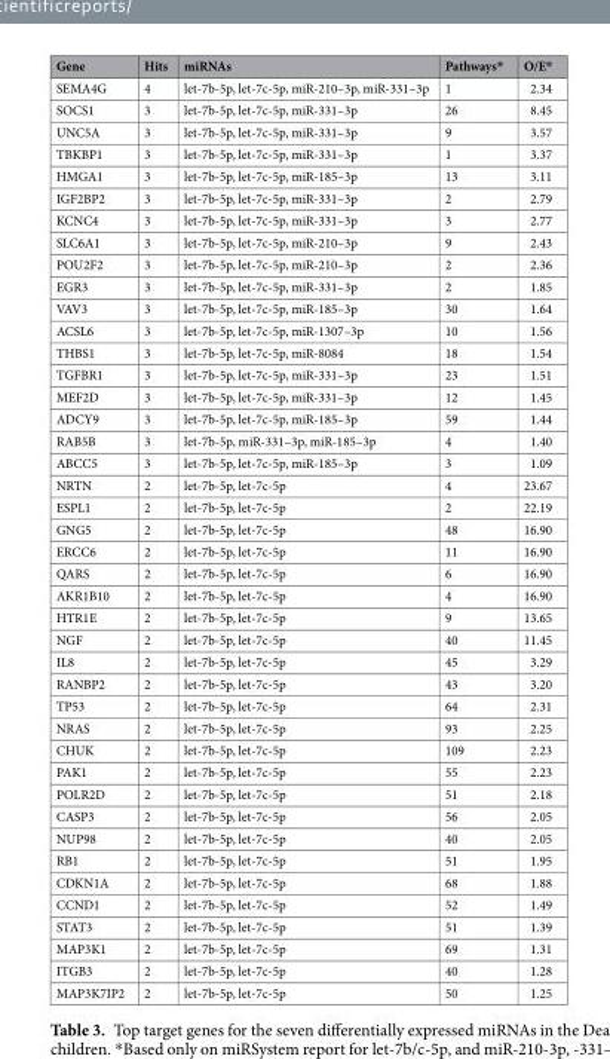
<table><thead><tr><td>Gene</td><td>Hits</td><td>miRNAs</td><td>Pathways*</td><td>O/E*</td></tr></thead><tbody><tr><td>SEMA4G</td><td>4</td><td>let-7b-5p, let-7c-5p, miR-210–3p, miR-331–3p</td><td>1</td><td>2.34</td></tr><tr><td>SOCS1</td><td>3</td><td>let-7b-5p, let-7c-5p, miR-331–3p</td><td>26</td><td>8.45</td></tr><tr><td>UNC5A</td><td>3</td><td>let-7b-5p, let-7c-5p, miR-331–3p</td><td>9</td><td>3.57</td></tr><tr><td>TBKBP1</td><td>3</td><td>let-7b-5p, let-7c-5p, miR-331–3p</td><td>1</td><td>3.37</td></tr><tr><td>HMGA1</td><td>3</td><td>let-7b-5p, let-7c-5p, miR-185–3p</td><td>13</td><td>3.11</td></tr><tr><td>IGF2BP2</td><td>3</td><td>let-7b-5p, let-7c-5p, miR-331–3p</td><td>2</td><td>2.79</td></tr><tr><td>KCNC4</td><td>3</td><td>let-7b-5p, let-7c-5p, miR-331–3p</td><td>3</td><td>2.77</td></tr><tr><td>SLC6A1</td><td>3</td><td>let-7b-5p, let-7c-5p, miR-210–3p</td><td>9</td><td>2.43</td></tr><tr><td>POU2F2</td><td>3</td><td>let-7b-5p, let-7c-5p, miR-210–3p</td><td>2</td><td>2.36</td></tr><tr><td>EGR3</td><td>3</td><td>let-7b-5p, let-7c-5p, miR-331–3p</td><td>2</td><td>1.85</td></tr><tr><td>VAV3</td><td>3</td><td>let-7b-5p, let-7c-5p, miR-185–3p</td><td>30</td><td>1.64</td></tr><tr><td>ACSL6</td><td>3</td><td>let-7b-5p, let-7c-5p, miR-1307–3p</td><td>10</td><td>1.56</td></tr><tr><td>THBS1</td><td>3</td><td>let-7b-5p, let-7c-5p, miR-8084</td><td>18</td><td>1.54</td></tr><tr><td>TGFBR1</td><td>3</td><td>let-7b-5p, let-7c-5p, miR-331–3p</td><td>23</td><td>1.51</td></tr><tr><td>MEF2D</td><td>3</td><td>let-7b-5p, let-7c-5p, miR-331–3p</td><td>12</td><td>1.45</td></tr><tr><td>ADCY9</td><td>3</td><td>let-7b-5p, let-7c-5p, miR-185–3p</td><td>59</td><td>1.44</td></tr><tr><td>RAB5B</td><td>3</td><td>let-7b-5p, miR-331–3p, miR-185–3p</td><td>4</td><td>1.40</td></tr><tr><td>ABCC5</td><td>3</td><td>let-7b-5p, let-7c-5p, miR-185–3p</td><td>3</td><td>1.09</td></tr><tr><td>NRTN</td><td>2</td><td>let-7b-5p, let-7c-5p</td><td>4</td><td>23.67</td></tr><tr><td>ESPL1</td><td>2</td><td>let-7b-5p, let-7c-5p</td><td>2</td><td>22.19</td></tr><tr><td>GNG5</td><td>2</td><td>let-7b-5p, let-7c-5p</td><td>48</td><td>16.90</td></tr><tr><td>ERCC6</td><td>2</td><td>let-7b-5p, let-7c-5p</td><td>11</td><td>16.90</td></tr><tr><td>QARS</td><td>2</td><td>let-7b-5p, let-7c-5p</td><td>6</td><td>16.90</td></tr><tr><td>AKR1B10</td><td>2</td><td>let-7b-5p, let-7c-5p</td><td>4</td><td>16.90</td></tr><tr><td>HTR1E</td><td>2</td><td>let-7b-5p, let-7c-5p</td><td>9</td><td>13.65</td></tr><tr><td>NGF</td><td>2</td><td>let-7b-5p, let-7c-5p</td><td>40</td><td>11.45</td></tr><tr><td>IL8</td><td>2</td><td>let-7b-5p, let-7c-5p</td><td>45</td><td>3.29</td></tr><tr><td>RANBP2</td><td>2</td><td>let-7b-5p, let-7c-5p</td><td>43</td><td>3.20</td></tr><tr><td>TP53</td><td>2</td><td>let-7b-5p, let-7c-5p</td><td>64</td><td>2.31</td></tr><tr><td>NRAS</td><td>2</td><td>let-7b-5p, let-7c-5p</td><td>93</td><td>2.25</td></tr><tr><td>CHUK</td><td>2</td><td>let-7b-5p, let-7c-5p</td><td>109</td><td>2.23</td></tr><tr><td>PAK1</td><td>2</td><td>let-7b-5p, let-7c-5p</td><td>55</td><td>2.23</td></tr><tr><td>POLR2D</td><td>2</td><td>let-7b-5p, let-7c-5p</td><td>51</td><td>2.18</td></tr><tr><td>CASP3</td><td>2</td><td>let-7b-5p, let-7c-5p</td><td>56</td><td>2.05</td></tr><tr><td>NUP98</td><td>2</td><td>let-7b-5p, let-7c-5p</td><td>40</td><td>2.05</td></tr><tr><td>RB1</td><td>2</td><td>let-7b-5p, let-7c-5p</td><td>51</td><td>1.95</td></tr><tr><td>CDKN1A</td><td>2</td><td>let-7b-5p, let-7c-5p</td><td>68</td><td>1.88</td></tr><tr><td>CCND1</td><td>2</td><td>let-7b-5p, let-7c-5p</td><td>52</td><td>1.49</td></tr><tr><td>STAT3</td><td>2</td><td>let-7b-5p, let-7c-5p</td><td>51</td><td>1.39</td></tr><tr><td>MAP3K1</td><td>2</td><td>let-7b-5p, let-7c-5p</td><td>69</td><td>1.31</td></tr><tr><td>ITGB3</td><td>2</td><td>let-7b-5p, let-7c-5p</td><td>40</td><td>1.28</td></tr><tr><td>MAP3K7IP2</td><td>2</td><td>let-7b-5p, let-7c-5p</td><td>50</td><td>1.25</td></tr></tbody></table>